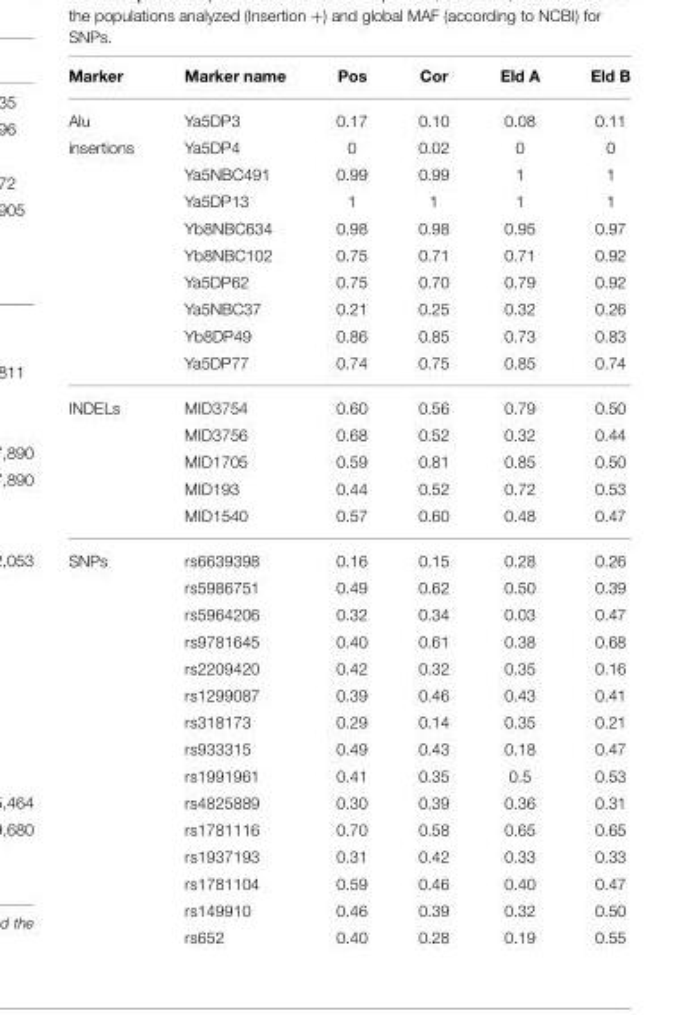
<table><thead><tr><td>Marker</td><td>Marker name</td><td>Pos</td><td>Cor</td><td>Eld A</td><td>Eld B</td></tr></thead><tbody><tr><td>Alu</td><td>Ya5DP3</td><td>0.17</td><td>0.10</td><td>0.08</td><td>0.11</td></tr><tr><td rowspan="9">insertions</td><td>Ya5DP4</td><td>0</td><td>0.02</td><td>0</td><td>0</td></tr><tr><td>Ya5NBC491</td><td>0.99</td><td>0.99</td><td>1</td><td>1</td></tr><tr><td>Ya5DP13</td><td>1</td><td>1</td><td>1</td><td>1</td></tr><tr><td>Yb8NBC634</td><td>0.98</td><td>0.98</td><td>0.95</td><td>0.97</td></tr><tr><td>Yb8NBC102</td><td>0.75</td><td>0.71</td><td>0.71</td><td>0.92</td></tr><tr><td>Ya5DP62</td><td>0.75</td><td>0.70</td><td>0.79</td><td>0.92</td></tr><tr><td>Ya5NBC37</td><td>0.21</td><td>0.25</td><td>0.32</td><td>0.26</td></tr><tr><td>Yb8DP49</td><td>0.86</td><td>0.85</td><td>0.73</td><td>0.83</td></tr><tr><td>Ya5DP77</td><td>0.74</td><td>0.75</td><td>0.85</td><td>0.74</td></tr><tr><td rowspan="5">INDELs</td><td>MID3754</td><td>0.60</td><td>0.56</td><td>0.79</td><td>0.50</td></tr><tr><td>MID3756</td><td>0.68</td><td>0.52</td><td>0.32</td><td>0.44</td></tr><tr><td>MID1705</td><td>0.59</td><td>0.81</td><td>0.85</td><td>0.50</td></tr><tr><td>MID193</td><td>0.44</td><td>0.52</td><td>0.72</td><td>0.53</td></tr><tr><td>MID1540</td><td>0.57</td><td>0.60</td><td>0.48</td><td>0.47</td></tr><tr><td rowspan="15">SNPs</td><td>rs6639398</td><td>0.16</td><td>0.15</td><td>0.28</td><td>0.26</td></tr><tr><td>rs5986751</td><td>0.49</td><td>0.62</td><td>0.50</td><td>0.39</td></tr><tr><td>rs5964206</td><td>0.32</td><td>0.34</td><td>0.03</td><td>0.47</td></tr><tr><td>rs9781645</td><td>0.40</td><td>0.61</td><td>0.38</td><td>0.68</td></tr><tr><td>rs2209420</td><td>0.42</td><td>0.32</td><td>0.35</td><td>0.16</td></tr><tr><td>rs1299087</td><td>0.39</td><td>0.46</td><td>0.43</td><td>0.41</td></tr><tr><td>rs318173</td><td>0.29</td><td>0.14</td><td>0.35</td><td>0.21</td></tr><tr><td>rs933315</td><td>0.49</td><td>0.43</td><td>0.18</td><td>0.47</td></tr><tr><td>rs1991961</td><td>0.41</td><td>0.35</td><td>0.5</td><td>0.53</td></tr><tr><td>rs4825889</td><td>0.30</td><td>0.39</td><td>0.36</td><td>0.31</td></tr><tr><td>rs1781116</td><td>0.70</td><td>0.58</td><td>0.65</td><td>0.65</td></tr><tr><td>rs1937193</td><td>0.31</td><td>0.42</td><td>0.33</td><td>0.33</td></tr><tr><td>rs1781104</td><td>0.59</td><td>0.46</td><td>0.40</td><td>0.47</td></tr><tr><td>rs149910</td><td>0.46</td><td>0.39</td><td>0.32</td><td>0.50</td></tr><tr><td>rs652</td><td>0.40</td><td>0.28</td><td>0.19</td><td>0.55</td></tr></tbody></table>